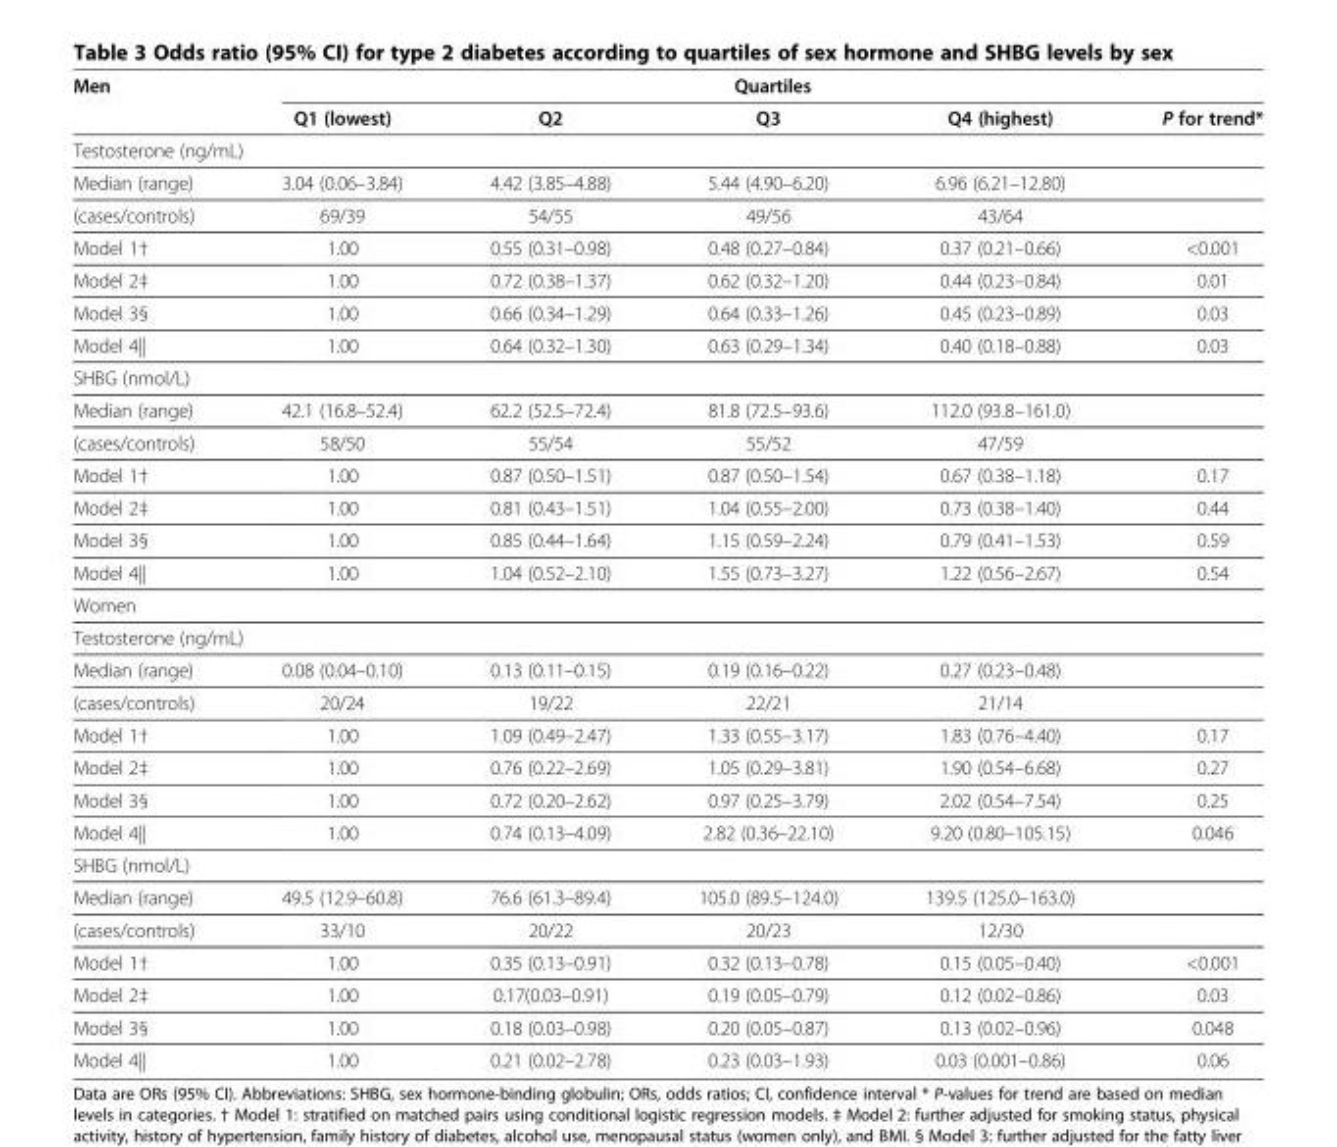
<table><thead><tr><td rowspan="2">Men</td><td colspan="5">Quartiles</td></tr><tr><td>Q1 (lowest)</td><td>Q2</td><td>Q3</td><td>Q4 (highest)</td><td>P for trend*</td></tr></thead><tbody><tr><td colspan="6">Testosterone (ng/mL)</td></tr><tr><td>Median (range)</td><td>3.04 (0.06–3.84)</td><td>4.42 (3.85–4.88)</td><td>5.44 (4.90–6.20)</td><td>6.96 (6.21–12.80)</td><td></td></tr><tr><td>(cases/controls)</td><td>69/39</td><td>54/55</td><td>49/56</td><td>43/64</td><td></td></tr><tr><td>Model 1†</td><td>1.00</td><td>0.55 (0.31–0.98)</td><td>0.48 (0.27–0.84)</td><td>0.37 (0.21–0.66)</td><td>&lt;0.001</td></tr><tr><td>Model 2‡</td><td>1.00</td><td>0.72 (0.38–1.37)</td><td>0.62 (0.32–1.20)</td><td>0.44 (0.23–0.84)</td><td>0.01</td></tr><tr><td>Model 3§</td><td>1.00</td><td>0.66 (0.34–1.29)</td><td>0.64 (0.33–1.26)</td><td>0.45 (0.23–0.89)</td><td>0.03</td></tr><tr><td>Model 4||</td><td>1.00</td><td>0.64 (0.32–1.30)</td><td>0.63 (0.29–1.34)</td><td>0.40 (0.18–0.88)</td><td>0.03</td></tr><tr><td colspan="6">SHBG (nmol/L)</td></tr><tr><td>Median (range)</td><td>42.1 (16.8–52.4)</td><td>62.2 (52.5–72.4)</td><td>81.8 (72.5–93.6)</td><td>112.0 (93.8–161.0)</td><td></td></tr><tr><td>(cases/controls)</td><td>58/50</td><td>55/54</td><td>55/52</td><td>47/59</td><td></td></tr><tr><td>Model 1†</td><td>1.00</td><td>0.87 (0.50–1.51)</td><td>0.87 (0.50–1.54)</td><td>0.67 (0.38–1.18)</td><td>0.17</td></tr><tr><td>Model 2‡</td><td>1.00</td><td>0.81 (0.43–1.51)</td><td>1.04 (0.55–2.00)</td><td>0.73 (0.38–1.40)</td><td>0.44</td></tr><tr><td>Model 3§</td><td>1.00</td><td>0.85 (0.44–1.64)</td><td>1.15 (0.59–2.24)</td><td>0.79 (0.41–1.53)</td><td>0.59</td></tr><tr><td>Model 4||</td><td>1.00</td><td>1.04 (0.52–2.10)</td><td>1.55 (0.73–3.27)</td><td>1.22 (0.56–2.67)</td><td>0.54</td></tr><tr><td colspan="6">Women</td></tr><tr><td colspan="6">Testosterone (ng/mL)</td></tr><tr><td>Median (range)</td><td>0.08 (0.04–0.10)</td><td>0.13 (0.11–0.15)</td><td>0.19 (0.16–0.22)</td><td>0.27 (0.23–0.48)</td><td></td></tr><tr><td>(cases/controls)</td><td>20/24</td><td>19/22</td><td>22/21</td><td>21/14</td><td></td></tr><tr><td>Model 1†</td><td>1.00</td><td>1.09 (0.49–2.47)</td><td>1.33 (0.55–3.17)</td><td>1.83 (0.76–4.40)</td><td>0.17</td></tr><tr><td>Model 2‡</td><td>1.00</td><td>0.76 (0.22–2.69)</td><td>1.05 (0.29–3.81)</td><td>1.90 (0.54–6.68)</td><td>0.27</td></tr><tr><td>Model 3§</td><td>1.00</td><td>0.72 (0.20–2.62)</td><td>0.97 (0.25–3.79)</td><td>2.02 (0.54–7.54)</td><td>0.25</td></tr><tr><td>Model 4||</td><td>1.00</td><td>0.74 (0.13–4.09)</td><td>2.82 (0.36–22.10)</td><td>9.20 (0.80–105.15)</td><td>0.046</td></tr><tr><td colspan="6">SHBG (nmol/L)</td></tr><tr><td>Median (range)</td><td>49.5 (12.9–60.8)</td><td>76.6 (61.3–89.4)</td><td>105.0 (89.5–124.0)</td><td>139.5 (125.0–163.0)</td><td></td></tr><tr><td>(cases/controls)</td><td>33/10</td><td>20/22</td><td>20/23</td><td>12/30</td><td></td></tr><tr><td>Model 1†</td><td>1.00</td><td>0.35 (0.13–0.91)</td><td>0.32 (0.13–0.78)</td><td>0.15 (0.05–0.40)</td><td>&lt;0.001</td></tr><tr><td>Model 2‡</td><td>1.00</td><td>0.17(0.03–0.91)</td><td>0.19 (0.05–0.79)</td><td>0.12 (0.02–0.86)</td><td>0.03</td></tr><tr><td>Model 3§</td><td>1.00</td><td>0.18 (0.03–0.98)</td><td>0.20 (0.05–0.87)</td><td>0.13 (0.02–0.96)</td><td>0.048</td></tr><tr><td>Model 4||</td><td>1.00</td><td>0.21 (0.02–2.78)</td><td>0.23 (0.03–1.93)</td><td>0.03 (0.001–0.86)</td><td>0.06</td></tr></tbody></table>